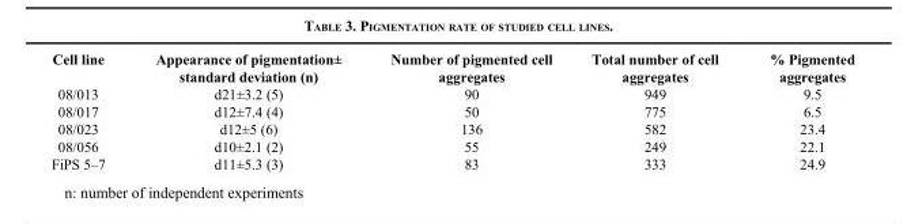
<table><thead><tr><td>Cell line</td><td>Appearance of pigmentation± standard deviation (n)</td><td>Number of pigmented cell aggregates</td><td>Total number of cell aggregates</td><td>% Pigmented aggregates</td></tr></thead><tbody><tr><td>08/013</td><td>d21±3.2 (5)</td><td>90</td><td>949</td><td>9.5</td></tr><tr><td>08/017</td><td>d12±7.4 (4)</td><td>50</td><td>775</td><td>6.5</td></tr><tr><td>08/023</td><td>d12±5 (6)</td><td>136</td><td>582</td><td>23.4</td></tr><tr><td>08/056</td><td>d10±2.1 (2)</td><td>55</td><td>249</td><td>22.1</td></tr><tr><td>FiPS 5–7</td><td>d11±5.3 (3)</td><td>83</td><td>333</td><td>24.9</td></tr></tbody></table>